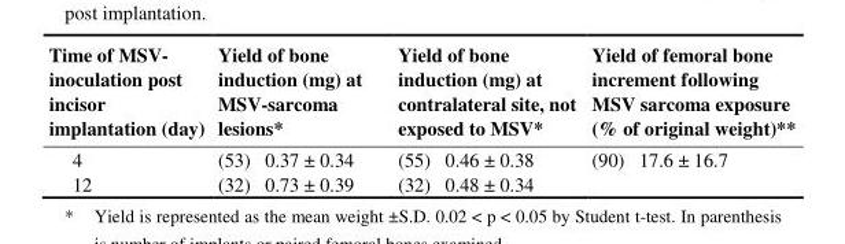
<table><thead><tr><td>Time of MSV- inoculation post incisor implantation (day)</td><td>Yield of bone induction (mg) at MSV-sarcoma lesions*</td><td>Yield of bone induction (mg) at contralateral site, not exposed to MSV*</td><td>Yield of femoral bone increment following MSV sarcoma exposure (% of original weight)**</td></tr></thead><tbody><tr><td>4</td><td>(53) 0.37 ± 0.34</td><td>(55) 0.46 ± 0.38</td><td>(90) 17.6 ± 16.7</td></tr><tr><td>12</td><td>(32) 0.73 ± 0.39</td><td>(32) 0.48 ± 0.34</td><td></td></tr></tbody></table>